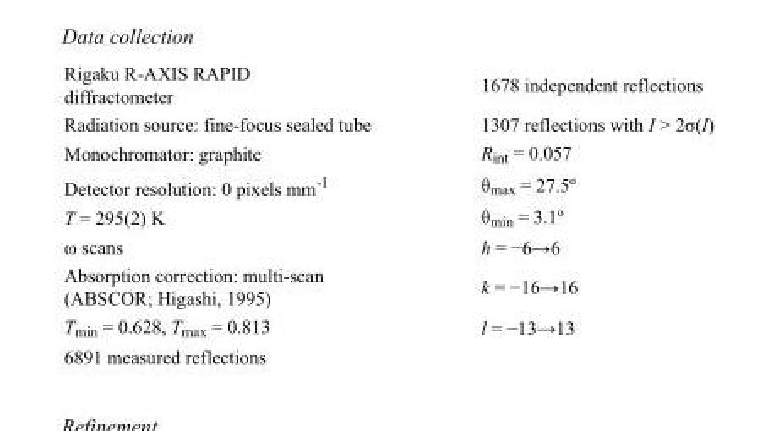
<table><tbody><tr><td>Rigaku R-AXIS RAPID diffractometer</td><td>1678 independent reflections</td></tr><tr><td>Radiation source: fine-focus sealed tube</td><td>1307 reflections with I &gt; 2σ(I)</td></tr><tr><td>Monochromator: graphite</td><td>R<sub>int</sub> = 0.057</td></tr><tr><td>Detector resolution: 0 pixels mm<sup>-1</sup></td><td>θ<sub>max</sub> = 27.5º</td></tr><tr><td>T = 295(2) K</td><td>θ<sub>min</sub> = 3.1º</td></tr><tr><td>ω scans</td><td>h = −6→6</td></tr><tr><td>Absorption correction: multi-scan (ABSCOR; Higashi, 1995)</td><td>k = −16→16</td></tr><tr><td>T<sub>min</sub> = 0.628, T<sub>max</sub> = 0.813</td><td>l = −13→13</td></tr><tr><td>6891 measured reflections</td><td></td></tr></tbody></table>